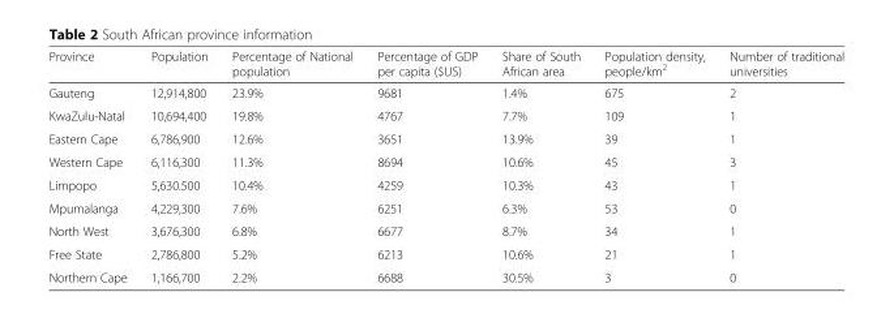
<table><thead><tr><td>Province</td><td>Population</td><td>Percentage of National population</td><td>Percentage of GDP per capita ($US)</td><td>Share of South African area</td><td>Population density, people/km<sup>2</sup></td><td>Number of traditional universities</td></tr></thead><tbody><tr><td>Gauteng</td><td>12,914,800</td><td>23.9%</td><td>9681</td><td>1.4%</td><td>675</td><td>2</td></tr><tr><td>KwaZulu-Natal</td><td>10,694,400</td><td>19.8%</td><td>4767</td><td>7.7%</td><td>109</td><td>1</td></tr><tr><td>Eastern Cape</td><td>6,786,900</td><td>12.6%</td><td>3651</td><td>13.9%</td><td>39</td><td>1</td></tr><tr><td>Western Cape</td><td>6,116,300</td><td>11.3%</td><td>8694</td><td>10.6%</td><td>45</td><td>3</td></tr><tr><td>Limpopo</td><td>5,630.500</td><td>10.4%</td><td>4259</td><td>10.3%</td><td>43</td><td>1</td></tr><tr><td>Mpumalanga</td><td>4,229,300</td><td>7.6%</td><td>6251</td><td>6.3%</td><td>53</td><td>0</td></tr><tr><td>North West</td><td>3,676,300</td><td>6.8%</td><td>6677</td><td>8.7%</td><td>34</td><td>1</td></tr><tr><td>Free State</td><td>2,786,800</td><td>5.2%</td><td>6213</td><td>10.6%</td><td>21</td><td>1</td></tr><tr><td>Northern Cape</td><td>1,166,700</td><td>2.2%</td><td>6688</td><td>30.5%</td><td>3</td><td>0</td></tr></tbody></table>